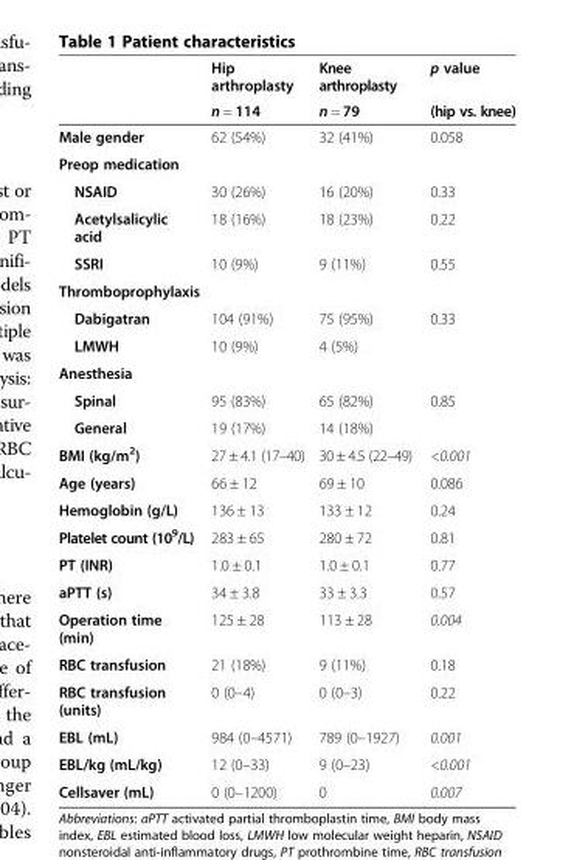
<table><thead><tr><td rowspan="2"></td><td rowspan="2">Hip arthroplasty n = 114</td><td rowspan="2">Knee arthroplasty n = 79</td><td rowspan="2">p value (hip vs. knee)</td></tr><tr></tr></thead><tbody><tr><td>Male gender</td><td>62 (54%)</td><td>32 (41%)</td><td>0.058</td></tr><tr><td colspan="4">Preop medication</td></tr><tr><td>NSAID</td><td>30 (26%)</td><td>16 (20%)</td><td>0.33</td></tr><tr><td>Acetylsalicylic acid</td><td>18 (16%)</td><td>18 (23%)</td><td>0.22</td></tr><tr><td>SSRI</td><td>10 (9%)</td><td>9 (11%)</td><td>0.55</td></tr><tr><td colspan="4">Thromboprophylaxis</td></tr><tr><td>Dabigatran</td><td>104 (91%)</td><td>75 (95%)</td><td rowspan="2">0.33</td></tr><tr><td>LMWH</td><td>10 (9%)</td><td>4 (5%)</td></tr><tr><td colspan="4">Anesthesia</td></tr><tr><td>Spinal</td><td>95 (83%)</td><td>65 (82%)</td><td>0.85</td></tr><tr><td>General</td><td>19 (17%)</td><td>14 (18%)</td><td></td></tr><tr><td>BMI (kg/m<sup>2</sup>)</td><td>27 ± 4.1 (17–40)</td><td>30 ± 4.5 (22–49)</td><td>&lt;0.001</td></tr><tr><td>Age (years)</td><td>66 ± 12</td><td>69 ± 10</td><td>0.086</td></tr><tr><td>Hemoglobin (g/L)</td><td>136 ± 13</td><td>133 ± 12</td><td>0.24</td></tr><tr><td>Platelet count (10<sup>9</sup>/L)</td><td>283 ± 65</td><td>280 ± 72</td><td>0.81</td></tr><tr><td>PT (INR)</td><td>1.0 ± 0.1</td><td>1.0 ± 0.1</td><td>0.77</td></tr><tr><td>aPTT (s)</td><td>34 ± 3.8</td><td>33 ± 3.3</td><td>0.57</td></tr><tr><td>Operation time (min)</td><td>125 ± 28</td><td>113 ± 28</td><td>0.004</td></tr><tr><td>RBC transfusion</td><td>21 (18%)</td><td>9 (11%)</td><td>0.18</td></tr><tr><td>RBC transfusion (units)</td><td>0 (0–4)</td><td>0 (0–3)</td><td>0.22</td></tr><tr><td>EBL (mL)</td><td>984 (0–4571)</td><td>789 (0–1927)</td><td>0.001</td></tr><tr><td>EBL/kg (mL/kg)</td><td>12 (0–33)</td><td>9 (0–23)</td><td>&lt;0.001</td></tr><tr><td>Cellsaver (mL)</td><td>0 (0–1200)</td><td>0</td><td>0.007</td></tr></tbody></table>